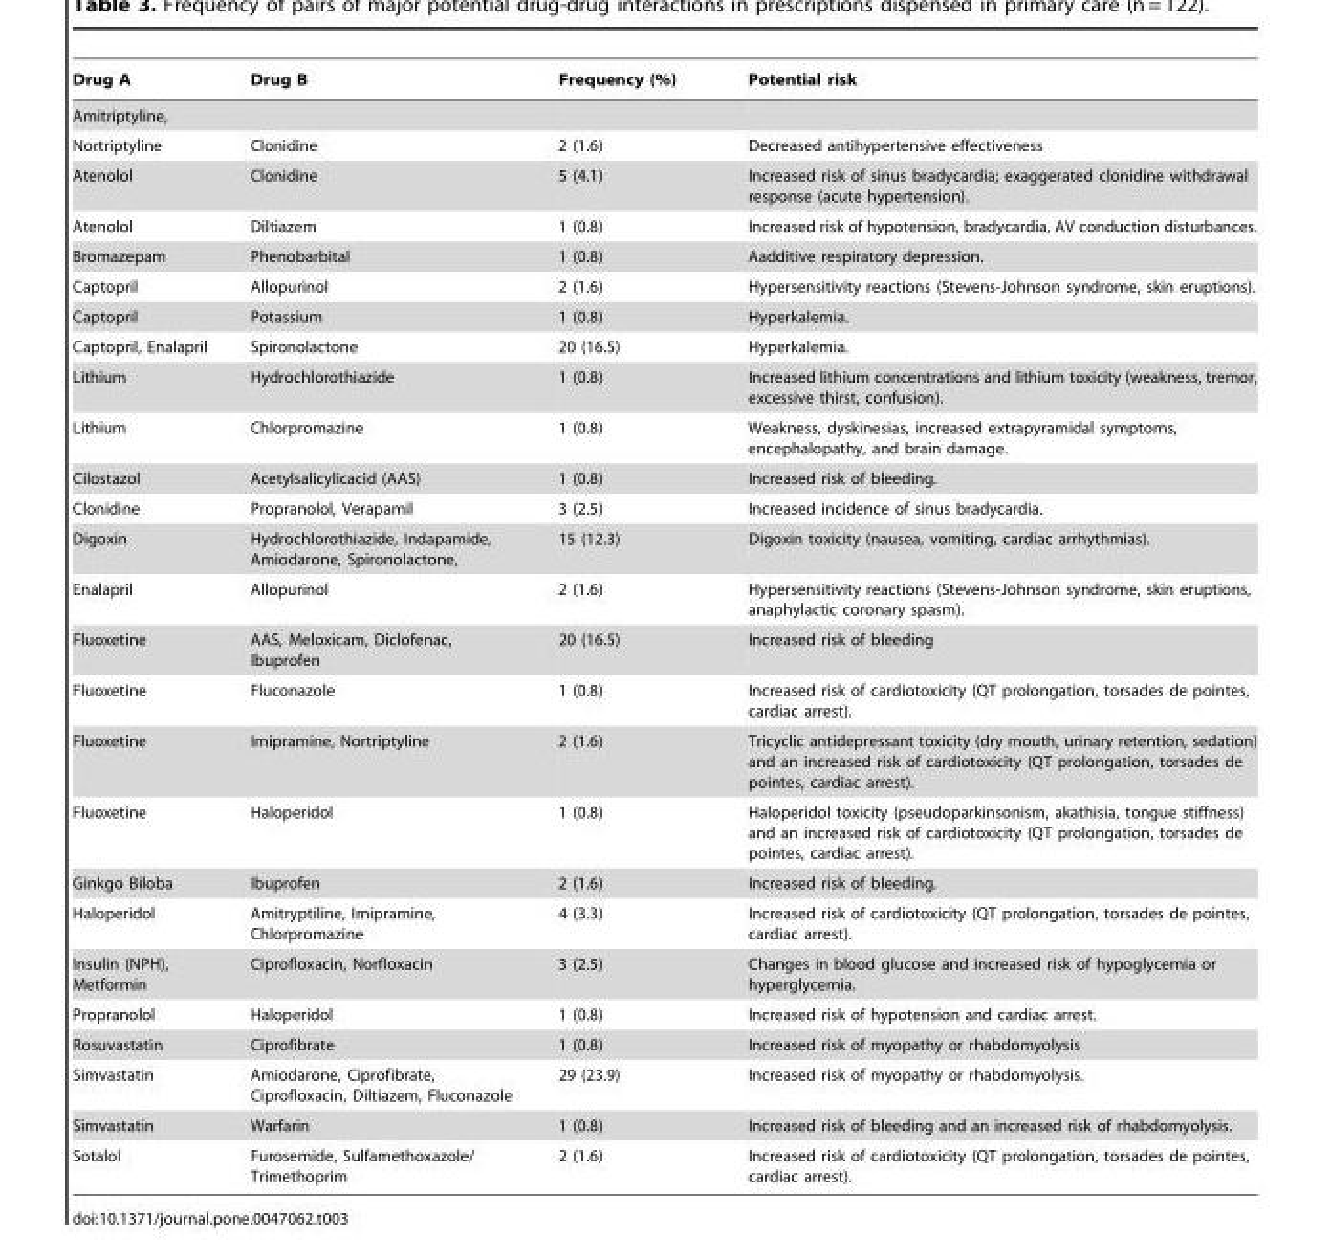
<table><thead><tr><td>Drug A</td><td>Drug B</td><td>Frequency (%)</td><td>Potential risk</td></tr></thead><tbody><tr><td colspan="4">Amitriptyline,</td></tr><tr><td>Nortriptyline</td><td>Clonidine</td><td>2 (1.6)</td><td>Decreased antihypertensive effectiveness</td></tr><tr><td>Atenolol</td><td>Clonidine</td><td>5 (4.1)</td><td>Increased risk of sinus bradycardia; exaggerated clonidine withdrawal response (acute hypertension).</td></tr><tr><td>Atenolol</td><td>Diltiazem</td><td>1 (0.8)</td><td>Increased risk of hypotension, bradycardia, AV conduction disturbances.</td></tr><tr><td>Bromazepam</td><td>Phenobarbital</td><td>1 (0.8)</td><td>Aadditive respiratory depression.</td></tr><tr><td>Captopril</td><td>Allopurinol</td><td>2 (1.6)</td><td>Hypersensitivity reactions (Stevens-Johnson syndrome, skin eruptions).</td></tr><tr><td>Captopril</td><td>Potassium</td><td>1 (0.8)</td><td>Hyperkalemia.</td></tr><tr><td>Captopril, Enalapril</td><td>Spironolactone</td><td>20 (16.5)</td><td>Hyperkalemia.</td></tr><tr><td>Lithium</td><td>Hydrochlorothiazide</td><td>1 (0.8)</td><td>Increased lithium concentrations and lithium toxicity (weakness, tremor, excessive thirst, confusion).</td></tr><tr><td>Lithium</td><td>Chlorpromazine</td><td>1 (0.8)</td><td>Weakness, dyskinesias, increased extrapyramidal symptoms, encephalopathy, and brain damage.</td></tr><tr><td>Cilostazol</td><td>Acetylsalicylicacid (AAS)</td><td>1 (0.8)</td><td>Increased risk of bleeding.</td></tr><tr><td>Clonidine</td><td>Propranolol, Verapamil</td><td>3 (2.5)</td><td>Increased incidence of sinus bradycardia.</td></tr><tr><td>Digoxin</td><td>Hydrochlorothiazide, Indapamide, Amiodarone, Spironolactone,</td><td>15 (12.3)</td><td>Digoxin toxicity (nausea, vomiting, cardiac arrhythmias).</td></tr><tr><td>Enalapril</td><td>Allopurinol</td><td>2 (1.6)</td><td>Hypersensitivity reactions (Stevens-Johnson syndrome, skin eruptions, anaphylactic coronary spasm).</td></tr><tr><td>Fluoxetine</td><td>AAS, Meloxicam, Diclofenac, Ibuprofen</td><td>20 (16.5)</td><td>Increased risk of bleeding</td></tr><tr><td>Fluoxetine</td><td>Fluconazole</td><td>1 (0.8)</td><td>Increased risk of cardiotoxicity (QT prolongation, torsades de pointes, cardiac arrest).</td></tr><tr><td>Fluoxetine</td><td>Imipramine, Nortriptyline</td><td>2 (1.6)</td><td>Tricyclic antidepressant toxicity (dry mouth, urinary retention, sedation) and an increased risk of cardiotoxicity (QT prolongation, torsades de pointes, cardiac arrest).</td></tr><tr><td>Fluoxetine</td><td>Haloperidol</td><td>1 (0.8)</td><td>Haloperidol toxicity (pseudoparkinsonism, akathisia, tongue stiffness) and an increased risk of cardiotoxicity (QT prolongation, torsades de pointes, cardiac arrest).</td></tr><tr><td>Ginkgo Biloba</td><td>Ibuprofen</td><td>2 (1.6)</td><td>Increased risk of bleeding.</td></tr><tr><td>Haloperidol</td><td>Amitryptiline, Imipramine, Chlorpromazine</td><td>4 (3.3)</td><td>Increased risk of cardiotoxicity (QT prolongation, torsades de pointes, cardiac arrest).</td></tr><tr><td>Insulin (NPH), Metformin</td><td>Ciprofloxacin, Norfloxacin</td><td>3 (2.5)</td><td>Changes in blood glucose and increased risk of hypoglycemia or hyperglycemia.</td></tr><tr><td>Propranolol</td><td>Haloperidol</td><td>1 (0.8)</td><td>Increased risk of hypotension and cardiac arrest.</td></tr><tr><td>Rosuvastatin</td><td>Ciprofibrate</td><td>1 (0.8)</td><td>Increased risk of myopathy or rhabdomyolysis</td></tr><tr><td>Simvastatin</td><td>Amiodarone, Ciprofibrate, Ciprofloxacin, Diltiazem, Fluconazole</td><td>29 (23.9)</td><td>Increased risk of myopathy or rhabdomyolysis.</td></tr><tr><td>Simvastatin</td><td>Warfarin</td><td>1 (0.8)</td><td>Increased risk of bleeding and an increased risk of rhabdomyolysis.</td></tr><tr><td>Sotalol</td><td>Furosemide, Sulfamethoxazole/ Trimethoprim</td><td>2 (1.6)</td><td>Increased risk of cardiotoxicity (QT prolongation, torsades de pointes, cardiac arrest).</td></tr></tbody></table>